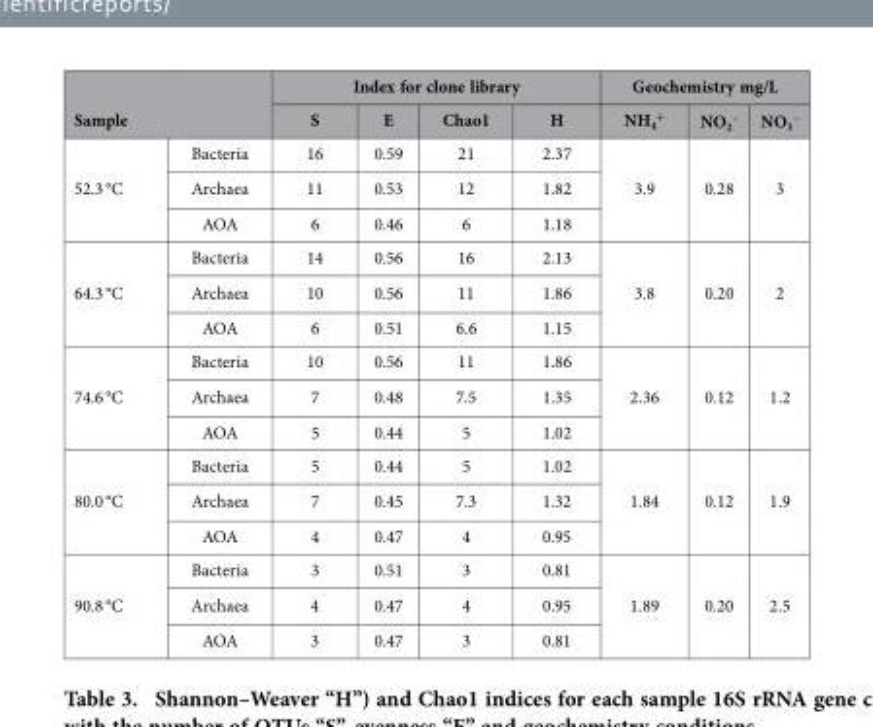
<table><thead><tr><td rowspan="2">Sample</td><td rowspan="2"></td><td colspan="4">Index for clone library</td><td colspan="3">Geochemistry mg/L</td></tr><tr><td>S</td><td>E</td><td>Chao1</td><td>H</td><td>NH<sub>4</sub> <sup>+</sup></td><td>NO<sub>2</sub> <sup>−</sup></td><td>NO<sub>3</sub> <sup>−</sup></td></tr></thead><tbody><tr><td rowspan="3">52.3 °C</td><td>Bacteria</td><td>16</td><td>0.59</td><td>21</td><td>2.37</td><td rowspan="3">3.9</td><td rowspan="3">0.28</td><td rowspan="3">3</td></tr><tr><td>Archaea</td><td>11</td><td>0.53</td><td>12</td><td>1.82</td></tr><tr><td>AOA</td><td>6</td><td>0.46</td><td>6</td><td>1.18</td></tr><tr><td rowspan="3">64.3 °C</td><td>Bacteria</td><td>14</td><td>0.56</td><td>16</td><td>2.13</td><td rowspan="3">3.8</td><td rowspan="3">0.20</td><td rowspan="3">2</td></tr><tr><td>Archaea</td><td>10</td><td>0.56</td><td>11</td><td>1.86</td></tr><tr><td>AOA</td><td>6</td><td>0.51</td><td>6.6</td><td>1.15</td></tr><tr><td rowspan="3">74.6 °C</td><td>Bacteria</td><td>10</td><td>0.56</td><td>11</td><td>1.86</td><td rowspan="3">2.36</td><td rowspan="3">0.12</td><td rowspan="3">1.2</td></tr><tr><td>Archaea</td><td>7</td><td>0.48</td><td>7.5</td><td>1.35</td></tr><tr><td>AOA</td><td>5</td><td>0.44</td><td>5</td><td>1.02</td></tr><tr><td rowspan="3">80.0 °C</td><td>Bacteria</td><td>5</td><td>0.44</td><td>5</td><td>1.02</td><td rowspan="3">1.84</td><td rowspan="3">0.12</td><td rowspan="3">1.9</td></tr><tr><td>Archaea</td><td>7</td><td>0.45</td><td>7.3</td><td>1.32</td></tr><tr><td>AOA</td><td>4</td><td>0.47</td><td>4</td><td>0.95</td></tr><tr><td rowspan="3">90.8 °C</td><td>Bacteria</td><td>3</td><td>0.51</td><td>3</td><td>0.81</td><td rowspan="3">1.89</td><td rowspan="3">0.20</td><td rowspan="3">2.5</td></tr><tr><td>Archaea</td><td>4</td><td>0.47</td><td>4</td><td>0.95</td></tr><tr><td>AOA</td><td>3</td><td>0.47</td><td>3</td><td>0.81</td></tr></tbody></table>